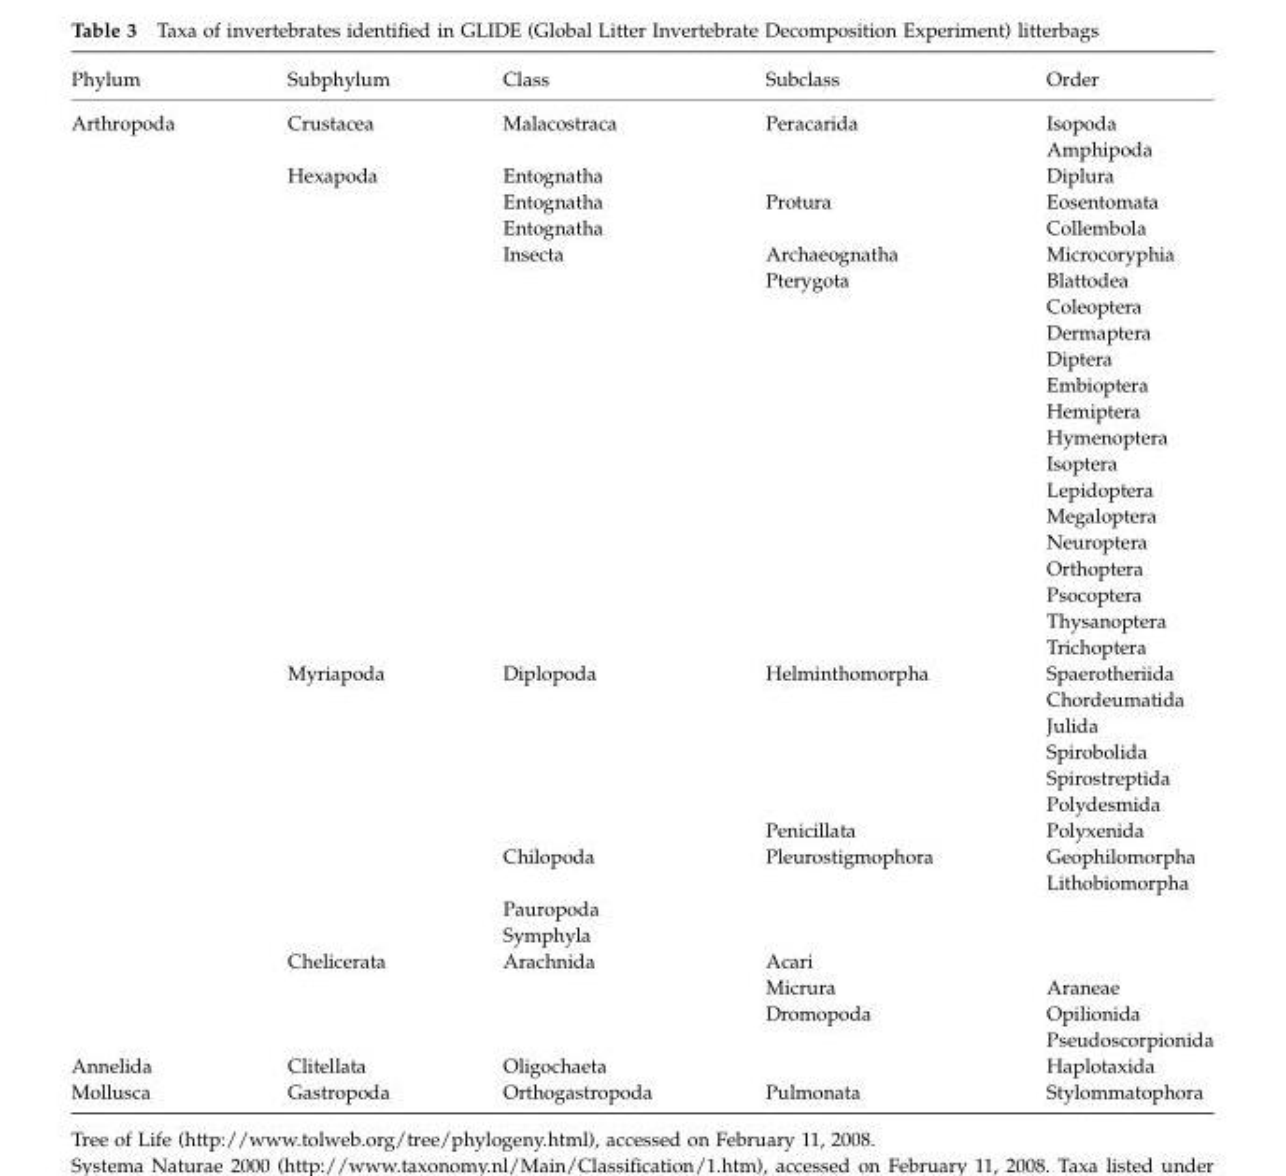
<table><thead><tr><td>Phylum</td><td>Subphylum</td><td>Class</td><td>Subclass</td><td>Order</td></tr></thead><tbody><tr><td rowspan="15">Arthropoda</td><td>Crustacea</td><td>Malacostraca</td><td>Peracarida</td><td>Isopoda Amphipoda</td></tr><tr><td>Hexapoda</td><td>Entognatha</td><td></td><td>Diplura</td></tr><tr><td></td><td>Entognatha</td><td>Protura</td><td>Eosentomata</td></tr><tr><td></td><td>Entognatha</td><td></td><td>Collembola</td></tr><tr><td></td><td>Insecta</td><td>Archaeognatha</td><td>Microcoryphia</td></tr><tr><td></td><td></td><td>Pterygota</td><td>Blattodea Coleoptera Dermaptera Diptera Embioptera Hemiptera Hymenoptera Isoptera Lepidoptera Megaloptera Neuroptera Orthoptera Psocoptera Thysanoptera Trichoptera</td></tr><tr><td>Myriapoda</td><td>Diplopoda</td><td>Helminthomorpha</td><td>Spaerotheriida Chordeumatida Julida Spirobolida Spirostreptida Polydesmida</td></tr><tr><td></td><td></td><td>Penicillata</td><td>Polyxenida</td></tr><tr><td></td><td>Chilopoda</td><td>Pleurostigmophora</td><td>Geophilomorpha Lithobiomorpha</td></tr><tr><td></td><td>Pauropoda</td><td></td><td></td></tr><tr><td></td><td>Symphyla</td><td></td><td></td></tr><tr><td>Chelicerata</td><td>Arachnida</td><td>Acari</td><td></td></tr><tr><td></td><td></td><td>Micrura</td><td>Araneae</td></tr><tr><td></td><td></td><td>Dromopoda</td><td>Opilionida</td></tr><tr><td></td><td></td><td></td><td>Pseudoscorpionida</td></tr><tr><td>Annelida</td><td>Clitellata</td><td>Oligochaeta</td><td></td><td>Haplotaxida</td></tr><tr><td>Mollusca</td><td>Gastropoda</td><td>Orthogastropoda</td><td>Pulmonata</td><td>Stylommatophora</td></tr></tbody></table>